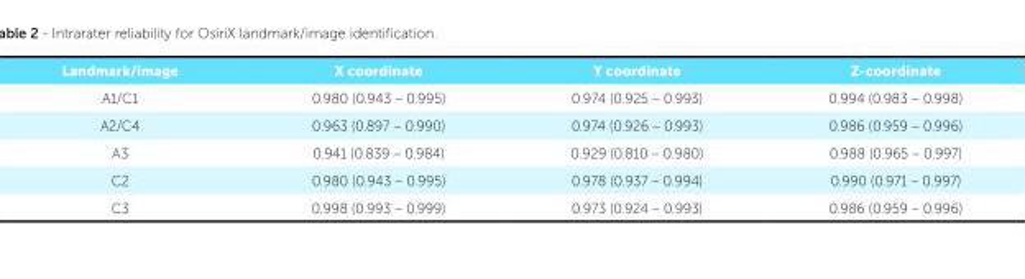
<table><thead><tr><td>Landmark/image</td><td>X coordinate</td><td>Y coordinate</td><td>Z-coordinate</td></tr></thead><tbody><tr><td>A1/C1</td><td>0.980 (0.943 – 0.995)</td><td>0.974 (0.925 – 0.993)</td><td>0.994 (0.983 – 0.998)</td></tr><tr><td>A2/C4</td><td>0.963 (0.897 – 0.990)</td><td>0.974 (0.926 – 0.993)</td><td>0.986 (0.959 – 0.996)</td></tr><tr><td>A3</td><td>0.941 (0.839 – 0.984)</td><td>0.929 (0.810 – 0.980)</td><td>0.988 (0.965 – 0.997)</td></tr><tr><td>C2</td><td>0.980 (0.943 – 0.995)</td><td>0.978 (0.937 – 0.994)</td><td>0.990 (0.971 – 0.997)</td></tr><tr><td>C3</td><td>0.998 (0.993 – 0.999)</td><td>0.973 (0.924 – 0.993)</td><td>0.986 (0.959 – 0.996)</td></tr></tbody></table>